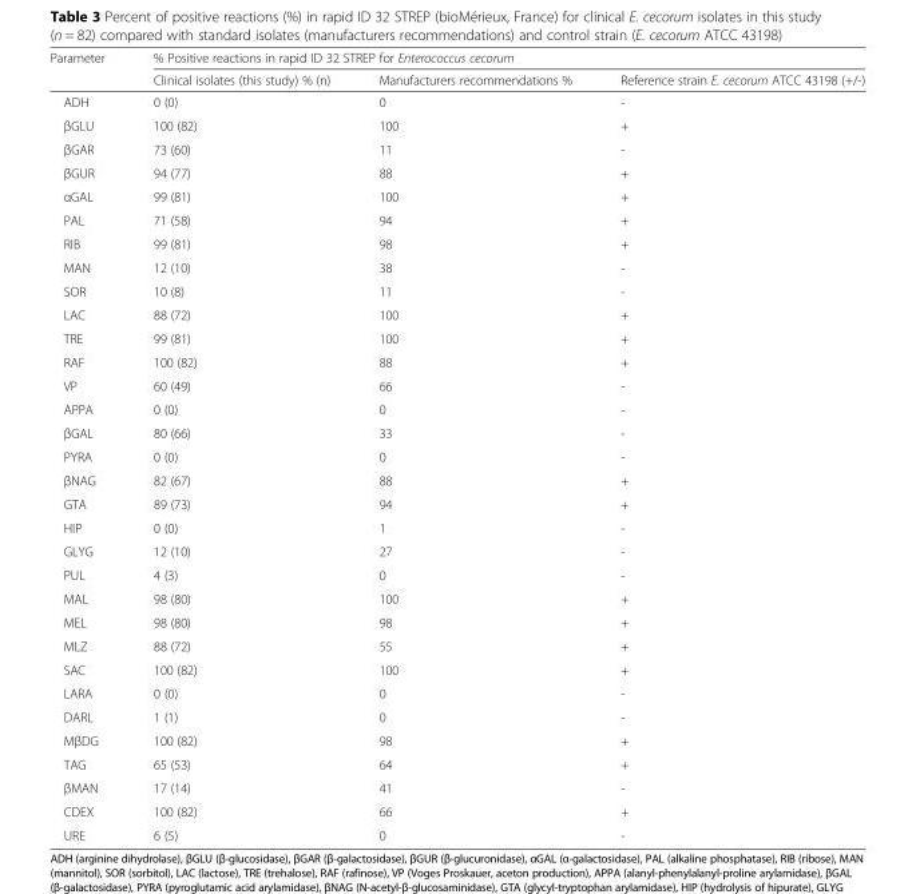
<table><thead><tr><td rowspan="2">Parameter</td><td colspan="3">% Positive reactions in rapid ID 32 STREP for Enterococcus cecorum</td></tr><tr><td>Clinical isolates (this study) % (n)</td><td>Manufacturers recommendations %</td><td>Reference strain E. cecorum ATCC 43198 (+/-)</td></tr></thead><tbody><tr><td>ADH</td><td>0 (0)</td><td>0</td><td>-</td></tr><tr><td>βGLU</td><td>100 (82)</td><td>100</td><td>+</td></tr><tr><td>βGAR</td><td>73 (60)</td><td>11</td><td>-</td></tr><tr><td>βGUR</td><td>94 (77)</td><td>88</td><td>+</td></tr><tr><td>αGAL</td><td>99 (81)</td><td>100</td><td>+</td></tr><tr><td>PAL</td><td>71 (58)</td><td>94</td><td>+</td></tr><tr><td>RIB</td><td>99 (81)</td><td>98</td><td>+</td></tr><tr><td>MAN</td><td>12 (10)</td><td>38</td><td>-</td></tr><tr><td>SOR</td><td>10 (8)</td><td>11</td><td>-</td></tr><tr><td>LAC</td><td>88 (72)</td><td>100</td><td>+</td></tr><tr><td>TRE</td><td>99 (81)</td><td>100</td><td>+</td></tr><tr><td>RAF</td><td>100 (82)</td><td>88</td><td>+</td></tr><tr><td>VP</td><td>60 (49)</td><td>66</td><td>-</td></tr><tr><td>APPA</td><td>0 (0)</td><td>0</td><td>-</td></tr><tr><td>βGAL</td><td>80 (66)</td><td>33</td><td>-</td></tr><tr><td>PYRA</td><td>0 (0)</td><td>0</td><td>-</td></tr><tr><td>βNAG</td><td>82 (67)</td><td>88</td><td>+</td></tr><tr><td>GTA</td><td>89 (73)</td><td>94</td><td>+</td></tr><tr><td>HIP</td><td>0 (0)</td><td>1</td><td>-</td></tr><tr><td>GLYG</td><td>12 (10)</td><td>27</td><td>-</td></tr><tr><td>PUL</td><td>4 (3)</td><td>0</td><td>-</td></tr><tr><td>MAL</td><td>98 (80)</td><td>100</td><td>+</td></tr><tr><td>MEL</td><td>98 (80)</td><td>98</td><td>+</td></tr><tr><td>MLZ</td><td>88 (72)</td><td>55</td><td>+</td></tr><tr><td>SAC</td><td>100 (82)</td><td>100</td><td>+</td></tr><tr><td>LARA</td><td>0 (0)</td><td>0</td><td>-</td></tr><tr><td>DARL</td><td>1 (1)</td><td>0</td><td>-</td></tr><tr><td>MβDG</td><td>100 (82)</td><td>98</td><td>+</td></tr><tr><td>TAG</td><td>65 (53)</td><td>64</td><td>+</td></tr><tr><td>βMAN</td><td>17 (14)</td><td>41</td><td>-</td></tr><tr><td>CDEX</td><td>100 (82)</td><td>66</td><td>+</td></tr><tr><td>URE</td><td>6 (5)</td><td>0</td><td>-</td></tr></tbody></table>